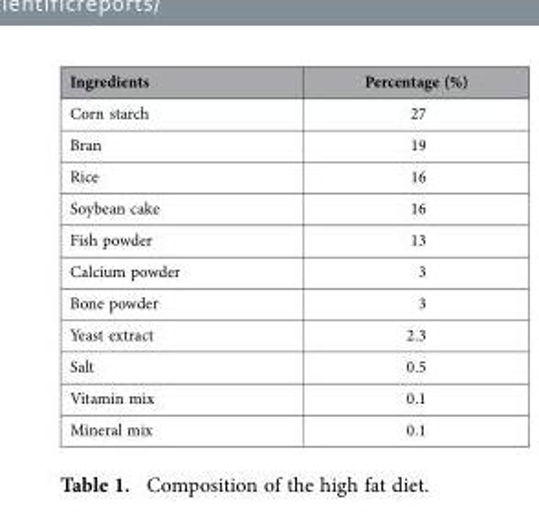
<table><thead><tr><td>Ingredients</td><td>Percentage (%)</td></tr></thead><tbody><tr><td>Corn starch</td><td>27</td></tr><tr><td>Bran</td><td>19</td></tr><tr><td>Rice</td><td>16</td></tr><tr><td>Soybean cake</td><td>16</td></tr><tr><td>Fish powder</td><td>13</td></tr><tr><td>Calcium powder</td><td>3</td></tr><tr><td>Bone powder</td><td>3</td></tr><tr><td>Yeast extract</td><td>2.3</td></tr><tr><td>Salt</td><td>0.5</td></tr><tr><td>Vitamin mix</td><td>0.1</td></tr><tr><td>Mineral mix</td><td>0.1</td></tr></tbody></table>